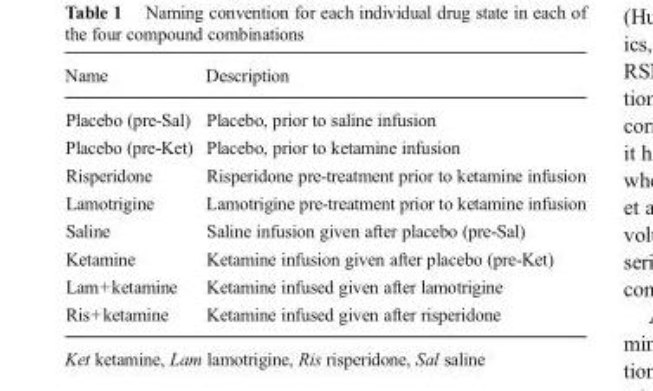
<table><thead><tr><td>Name</td><td>Description</td></tr></thead><tbody><tr><td>Placebo (pre-Sal)</td><td>Placebo, prior to saline infusion</td></tr><tr><td>Placebo (pre-Ket)</td><td>Placebo, prior to ketamine infusion</td></tr><tr><td>Risperidone</td><td>Risperidone pre-treatment prior to ketamine infusion</td></tr><tr><td>Lamotrigine</td><td>Lamotrigine pre-treatment prior to ketamine infusion</td></tr><tr><td>Saline</td><td>Saline infusion given after placebo (pre-Sal)</td></tr><tr><td>Ketamine</td><td>Ketamine infusion given after placebo (pre-Ket)</td></tr><tr><td>Lam+ketamine</td><td>Ketamine infused given after lamotrigine</td></tr><tr><td>Ris+ketamine</td><td>Ketamine infused given after risperidone</td></tr></tbody></table>